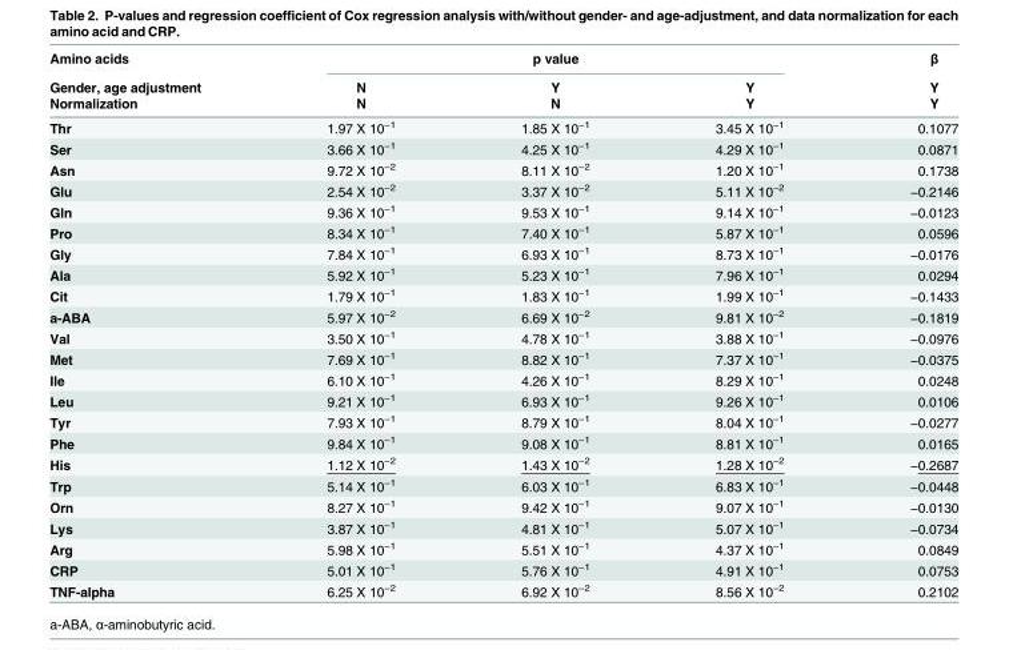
<table><thead><tr><td rowspan="3">Amino acids Gender, age adjustment Normalization</td><td colspan="3">p value</td><td rowspan="3">β Y Y</td></tr><tr><td rowspan="2">N N</td><td rowspan="2">Y N</td><td rowspan="2">Y Y</td></tr><tr></tr></thead><tbody><tr><td>Thr</td><td>1.97 X 10<sup>−1</sup></td><td>1.85 X 10<sup>−1</sup></td><td>3.45 X 10<sup>−1</sup></td><td>0.1077</td></tr><tr><td>Ser</td><td>3.66 X 10<sup>−1</sup></td><td>4.25 X 10<sup>−1</sup></td><td>4.29 X 10<sup>−1</sup></td><td>0.0871</td></tr><tr><td>Asn</td><td>9.72 X 10<sup>−2</sup></td><td>8.11 X 10<sup>−2</sup></td><td>1.20 X 10<sup>−1</sup></td><td>0.1738</td></tr><tr><td>Glu</td><td>2.54 X 10<sup>−2</sup></td><td>3.37 X 10<sup>−2</sup></td><td>5.11 X 10<sup>−2</sup></td><td>−0.2146</td></tr><tr><td>Gln</td><td>9.36 X 10<sup>−1</sup></td><td>9.53 X 10<sup>−1</sup></td><td>9.14 X 10<sup>−1</sup></td><td>−0.0123</td></tr><tr><td>Pro</td><td>8.34 X 10<sup>−1</sup></td><td>7.40 X 10<sup>−1</sup></td><td>5.87 X 10<sup>−1</sup></td><td>0.0596</td></tr><tr><td>Gly</td><td>7.84 X 10<sup>−1</sup></td><td>6.93 X 10<sup>−1</sup></td><td>8.73 X 10<sup>−1</sup></td><td>−0.0176</td></tr><tr><td>Ala</td><td>5.92 X 10<sup>−1</sup></td><td>5.23 X 10<sup>−1</sup></td><td>7.96 X 10<sup>−1</sup></td><td>0.0294</td></tr><tr><td>Cit</td><td>1.79 X 10<sup>−1</sup></td><td>1.83 X 10<sup>−1</sup></td><td>1.99 X 10<sup>−1</sup></td><td>−0.1433</td></tr><tr><td>a-ABA</td><td>5.97 X 10<sup>−2</sup></td><td>6.69 X 10<sup>−2</sup></td><td>9.81 X 10<sup>−2</sup></td><td>−0.1819</td></tr><tr><td>Val</td><td>3.50 X 10<sup>−1</sup></td><td>4.78 X 10<sup>−1</sup></td><td>3.88 X 10<sup>−1</sup></td><td>−0.0976</td></tr><tr><td>Met</td><td>7.69 X 10<sup>−1</sup></td><td>8.82 X 10<sup>−1</sup></td><td>7.37 X 10<sup>−1</sup></td><td>−0.0375</td></tr><tr><td>Ile</td><td>6.10 X 10<sup>−1</sup></td><td>4.26 X 10<sup>−1</sup></td><td>8.29 X 10<sup>−1</sup></td><td>0.0248</td></tr><tr><td>Leu</td><td>9.21 X 10<sup>−1</sup></td><td>6.93 X 10<sup>−1</sup></td><td>9.26 X 10<sup>−1</sup></td><td>0.0106</td></tr><tr><td>Tyr</td><td>7.93 X 10<sup>−1</sup></td><td>8.79 X 10<sup>−1</sup></td><td>8.04 X 10<sup>−1</sup></td><td>−0.0277</td></tr><tr><td>Phe</td><td>9.84 X 10<sup>−1</sup></td><td>9.08 X 10<sup>−1</sup></td><td>8.81 X 10<sup>−1</sup></td><td>0.0165</td></tr><tr><td>His</td><td>1.12 X 10<sup>−2</sup></td><td>1.43 X 10<sup>−2</sup></td><td>1.28 X 10<sup>−2</sup></td><td>−0.2687</td></tr><tr><td>Trp</td><td>5.14 X 10<sup>−1</sup></td><td>6.03 X 10<sup>−1</sup></td><td>6.83 X 10<sup>−1</sup></td><td>−0.0448</td></tr><tr><td>Orn</td><td>8.27 X 10<sup>−1</sup></td><td>9.42 X 10<sup>−1</sup></td><td>9.07 X 10<sup>−1</sup></td><td>−0.0130</td></tr><tr><td>Lys</td><td>3.87 X 10<sup>−1</sup></td><td>4.81 X 10<sup>−1</sup></td><td>5.07 X 10<sup>−1</sup></td><td>−0.0734</td></tr><tr><td>Arg</td><td>5.98 X 10<sup>−1</sup></td><td>5.51 X 10<sup>−1</sup></td><td>4.37 X 10<sup>−1</sup></td><td>0.0849</td></tr><tr><td>CRP</td><td>5.01 X 10<sup>−1</sup></td><td>5.76 X 10<sup>−1</sup></td><td>4.91 X 10<sup>−1</sup></td><td>0.0753</td></tr><tr><td>TNF-alpha</td><td>6.25 X 10<sup>−2</sup></td><td>6.92 X 10<sup>−2</sup></td><td>8.56 X 10<sup>−2</sup></td><td>0.2102</td></tr></tbody></table>